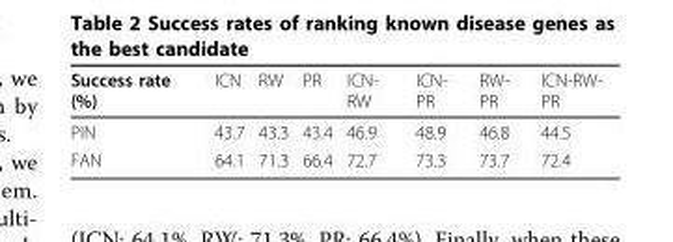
<table><thead><tr><td>Success rate (%)</td><td>ICN</td><td>RW</td><td>PR</td><td>ICN- RW</td><td>ICN- PR</td><td>RW- PR</td><td>ICN-RW- PR</td></tr></thead><tbody><tr><td>PIN</td><td>43.7</td><td>43.3</td><td>43.4</td><td>46.9</td><td>48.9</td><td>46.8</td><td>44.5</td></tr><tr><td>FAN</td><td>64.1</td><td>71.3</td><td>66.4</td><td>72.7</td><td>73.3</td><td>73.7</td><td>72.4</td></tr></tbody></table>